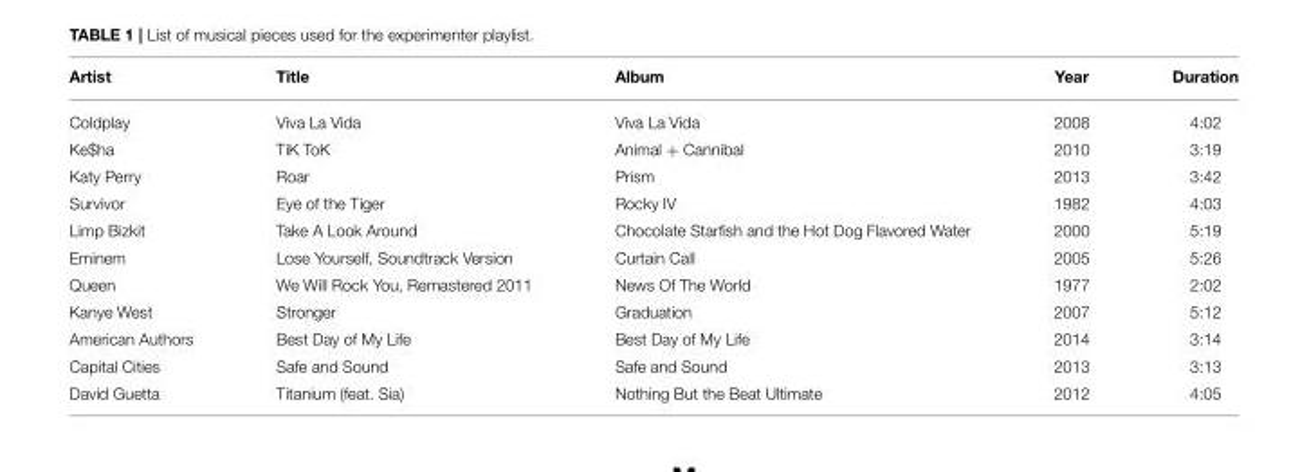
<table><thead><tr><td>Artist</td><td>Title</td><td>Album</td><td>Year</td><td>Duration</td></tr></thead><tbody><tr><td>Coldplay</td><td>Viva La Vida</td><td>Viva La Vida</td><td>2008</td><td>4:02</td></tr><tr><td>Ke$ha</td><td>TiK ToK</td><td>Animal + Cannibal</td><td>2010</td><td>3:19</td></tr><tr><td>Katy Perry</td><td>Roar</td><td>Prism</td><td>2013</td><td>3:42</td></tr><tr><td>Survivor</td><td>Eye of the Tiger</td><td>Rocky IV</td><td>1982</td><td>4:03</td></tr><tr><td>Limp Bizkit</td><td>Take A Look Around</td><td>Chocolate Starfish and the Hot Dog Flavored Water</td><td>2000</td><td>5:19</td></tr><tr><td>Eminem</td><td>Lose Yourself, Soundtrack Version</td><td>Curtain Call</td><td>2005</td><td>5:26</td></tr><tr><td>Queen</td><td>We Will Rock You, Remastered 2011</td><td>News Of The World</td><td>1977</td><td>2:02</td></tr><tr><td>Kanye West</td><td>Stronger</td><td>Graduation</td><td>2007</td><td>5:12</td></tr><tr><td>American Authors</td><td>Best Day of My Life</td><td>Best Day of My Life</td><td>2014</td><td>3:14</td></tr><tr><td>Capital Cities</td><td>Safe and Sound</td><td>Safe and Sound</td><td>2013</td><td>3:13</td></tr><tr><td>David Guetta</td><td>Titanium (feat. Sia)</td><td>Nothing But the Beat Ultimate</td><td>2012</td><td>4:05</td></tr></tbody></table>